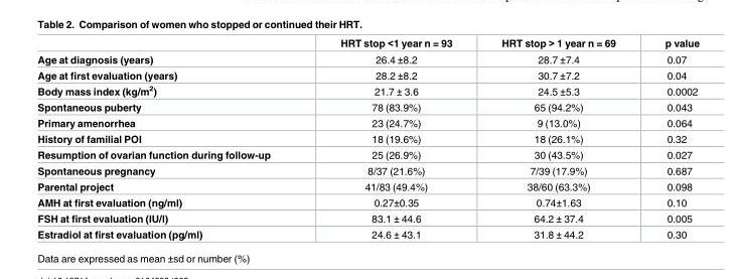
<table><thead><tr><td></td><td>HRT stop &lt;1 year n = 93</td><td>HRT stop &gt; 1 year n = 69</td><td>p value</td></tr></thead><tbody><tr><td>Age at diagnosis (years)</td><td>26.4 ±8.2</td><td>28.7 ±7.4</td><td>0.07</td></tr><tr><td>Age at first evaluation (years)</td><td>28.2 ±8.2</td><td>30.7 ±7.2</td><td>0.04</td></tr><tr><td>Body mass index (kg/m<sup>2</sup>)</td><td>21.7 ± 3.6</td><td>24.5 ±5.3</td><td>0.0002</td></tr><tr><td>Spontaneous puberty</td><td>78 (83.9%)</td><td>65 (94.2%)</td><td>0.043</td></tr><tr><td>Primary amenorrhea</td><td>23 (24.7%)</td><td>9 (13.0%)</td><td>0.064</td></tr><tr><td>History of familial POI</td><td>18 (19.6%)</td><td>18 (26.1%)</td><td>0.32</td></tr><tr><td>Resumption of ovarian function during follow-up</td><td>25 (26.9%)</td><td>30 (43.5%)</td><td>0.027</td></tr><tr><td>Spontaneous pregnancy</td><td>8/37 (21.6%)</td><td>7/39 (17.9%)</td><td>0.687</td></tr><tr><td>Parental project</td><td>41/83 (49.4%)</td><td>38/60 (63.3%)</td><td>0.098</td></tr><tr><td>AMH at first evaluation (ng/ml)</td><td>0.27±0.35</td><td>0.74±1.63</td><td>0.10</td></tr><tr><td>FSH at first evaluation (IU/l)</td><td>83.1 ± 44.6</td><td>64.2 ± 37.4</td><td>0.005</td></tr><tr><td>Estradiol at first evaluation (pg/ml)</td><td>24.6 ± 43.1</td><td>31.8 ± 44.2</td><td>0.30</td></tr></tbody></table>